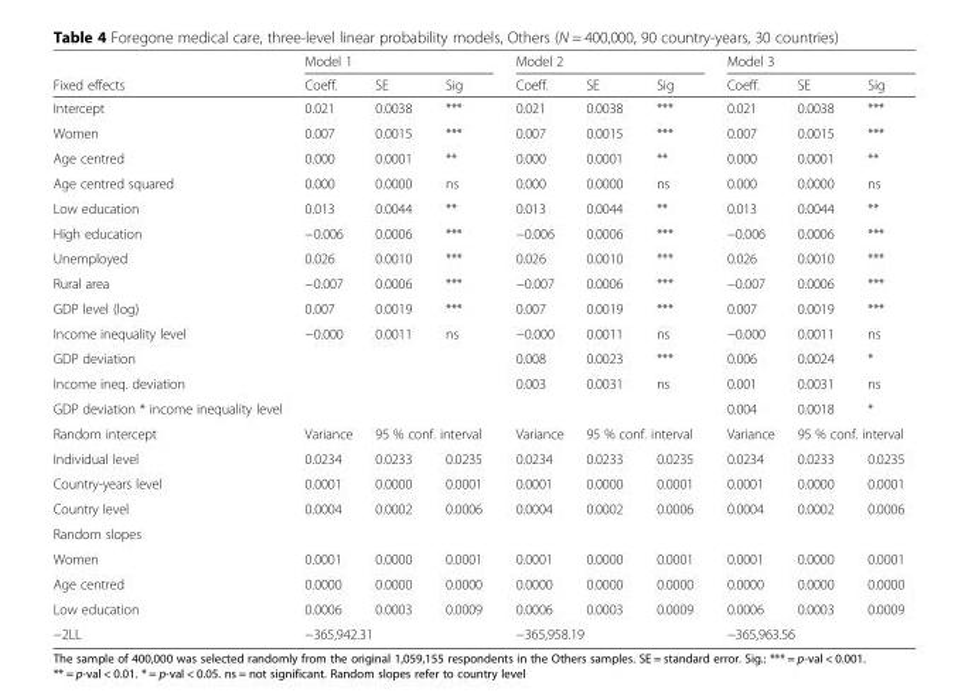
<table><thead><tr><td rowspan="2">Fixed effects</td><td colspan="3">Model 1</td><td colspan="3">Model 2</td><td colspan="3">Model 3</td></tr><tr><td>Coeff.</td><td>SE</td><td>Sig</td><td>Coeff.</td><td>SE</td><td>Sig</td><td>Coeff.</td><td>SE</td><td>Sig</td></tr></thead><tbody><tr><td>Intercept</td><td>0.021</td><td>0.0038</td><td>***</td><td>0.021</td><td>0.0038</td><td>***</td><td>0.021</td><td>0.0038</td><td>***</td></tr><tr><td>Women</td><td>0.007</td><td>0.0015</td><td>***</td><td>0.007</td><td>0.0015</td><td>***</td><td>0.007</td><td>0.0015</td><td>***</td></tr><tr><td>Age centred</td><td>0.000</td><td>0.0001</td><td>**</td><td>0.000</td><td>0.0001</td><td>**</td><td>0.000</td><td>0.0001</td><td>**</td></tr><tr><td>Age centred squared</td><td>0.000</td><td>0.0000</td><td>ns</td><td>0.000</td><td>0.0000</td><td>ns</td><td>0.000</td><td>0.0000</td><td>ns</td></tr><tr><td>Low education</td><td>0.013</td><td>0.0044</td><td>**</td><td>0.013</td><td>0.0044</td><td>**</td><td>0.013</td><td>0.0044</td><td>**</td></tr><tr><td>High education</td><td>−0.006</td><td>0.0006</td><td>***</td><td>−0.006</td><td>0.0006</td><td>***</td><td>−0.006</td><td>0.0006</td><td>***</td></tr><tr><td>Unemployed</td><td>0.026</td><td>0.0010</td><td>***</td><td>0.026</td><td>0.0010</td><td>***</td><td>0.026</td><td>0.0010</td><td>***</td></tr><tr><td>Rural area</td><td>−0.007</td><td>0.0006</td><td>***</td><td>−0.007</td><td>0.0006</td><td>***</td><td>−0.007</td><td>0.0006</td><td>***</td></tr><tr><td>GDP level (log)</td><td>0.007</td><td>0.0019</td><td>***</td><td>0.007</td><td>0.0019</td><td>***</td><td>0.007</td><td>0.0019</td><td>***</td></tr><tr><td>Income inequality level</td><td>−0.000</td><td>0.0011</td><td>ns</td><td>−0.000</td><td>0.0011</td><td>ns</td><td>−0.000</td><td>0.0011</td><td>ns</td></tr><tr><td>GDP deviation</td><td></td><td></td><td></td><td>0.008</td><td>0.0023</td><td>***</td><td>0.006</td><td>0.0024</td><td>*</td></tr><tr><td>Income ineq. deviation</td><td></td><td></td><td></td><td>0.003</td><td>0.0031</td><td>ns</td><td>0.001</td><td>0.0031</td><td>ns</td></tr><tr><td>GDP deviation * income inequality level</td><td></td><td></td><td></td><td></td><td></td><td></td><td>0.004</td><td>0.0018</td><td>*</td></tr><tr><td>Random intercept</td><td>Variance</td><td colspan="2">95 % conf. interval</td><td>Variance</td><td colspan="2">95 % conf. interval</td><td>Variance</td><td colspan="2">95 % conf. interval</td></tr><tr><td>Individual level</td><td>0.0234</td><td>0.0233</td><td>0.0235</td><td>0.0234</td><td>0.0233</td><td>0.0235</td><td>0.0234</td><td>0.0233</td><td>0.0235</td></tr><tr><td>Country-years level</td><td>0.0001</td><td>0.0000</td><td>0.0001</td><td>0.0001</td><td>0.0000</td><td>0.0001</td><td>0.0001</td><td>0.0000</td><td>0.0001</td></tr><tr><td>Country level</td><td>0.0004</td><td>0.0002</td><td>0.0006</td><td>0.0004</td><td>0.0002</td><td>0.0006</td><td>0.0004</td><td>0.0002</td><td>0.0006</td></tr><tr><td colspan="10">Random slopes</td></tr><tr><td>Women</td><td>0.0001</td><td>0.0000</td><td>0.0001</td><td>0.0001</td><td>0.0000</td><td>0.0001</td><td>0.0001</td><td>0.0000</td><td>0.0001</td></tr><tr><td>Age centred</td><td>0.0000</td><td>0.0000</td><td>0.0000</td><td>0.0000</td><td>0.0000</td><td>0.0000</td><td>0.0000</td><td>0.0000</td><td>0.0000</td></tr><tr><td>Low education</td><td>0.0006</td><td>0.0003</td><td>0.0009</td><td>0.0006</td><td>0.0003</td><td>0.0009</td><td>0.0006</td><td>0.0003</td><td>0.0009</td></tr><tr><td>−2LL</td><td colspan="3">−365,942.31</td><td colspan="3">−365,958.19</td><td colspan="3">−365,963.56</td></tr></tbody></table>